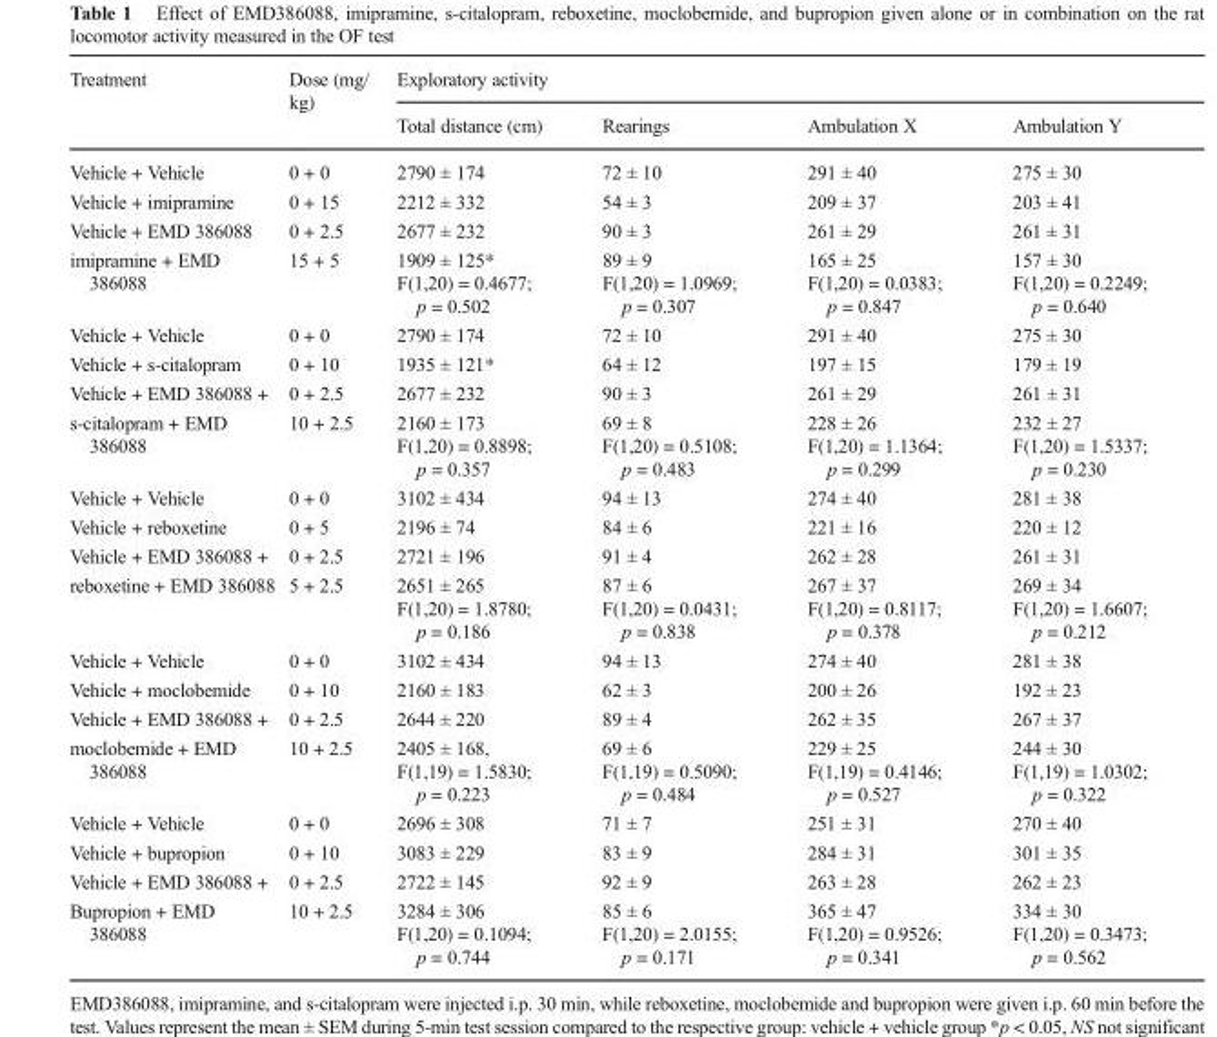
<table><thead><tr><td rowspan="2">Treatment</td><td rowspan="2">Dose (mg/ kg)</td><td colspan="4">Exploratory activity</td></tr><tr><td>Total distance (cm)</td><td>Rearings</td><td>Ambulation X</td><td>Ambulation Y</td></tr></thead><tbody><tr><td>Vehicle + Vehicle</td><td>0 + 0</td><td>2790 ± 174</td><td>72 ± 10</td><td>291 ± 40</td><td>275 ± 30</td></tr><tr><td>Vehicle + imipramine</td><td>0 + 15</td><td>2212 ± 332</td><td>54 ± 3</td><td>209 ± 37</td><td>203 ± 41</td></tr><tr><td>Vehicle + EMD 386088</td><td>0 + 2.5</td><td>2677 ± 232</td><td>90 ± 3</td><td>261 ± 29</td><td>261 ± 31</td></tr><tr><td>imipramine + EMD 386088</td><td>15 + 5</td><td>1909 ± 125* F(1,20) = 0.4677; p = 0.502</td><td>89 ± 9 F(1,20) = 1.0969; p = 0.307</td><td>165 ± 25 F(1,20) = 0.0383; p = 0.847</td><td>157 ± 30 F(1,20) = 0.2249; p = 0.640</td></tr><tr><td>Vehicle + Vehicle</td><td>0 + 0</td><td>2790 ± 174</td><td>72 ± 10</td><td>291 ± 40</td><td>275 ± 30</td></tr><tr><td>Vehicle + s-citalopram</td><td>0 + 10</td><td>1935 ± 121*</td><td>64 ± 12</td><td>197 ± 15</td><td>179 ± 19</td></tr><tr><td>Vehicle + EMD 386088 +</td><td>0 + 2.5</td><td>2677 ± 232</td><td>90 ± 3</td><td>261 ± 29</td><td>261 ± 31</td></tr><tr><td>s-citalopram + EMD 386088</td><td>10 + 2.5</td><td>2160 ± 173 F(1,20) = 0.8898; p = 0.357</td><td>69 ± 8 F(1,20) = 0.5108; p = 0.483</td><td>228 ± 26 F(1,20) = 1.1364; p = 0.299</td><td>232 ± 27 F(1,20) = 1.5337; p = 0.230</td></tr><tr><td>Vehicle + Vehicle</td><td>0 + 0</td><td>3102 ± 434</td><td>94 ± 13</td><td>274 ± 40</td><td>281 ± 38</td></tr><tr><td>Vehicle + reboxetine</td><td>0 + 5</td><td>2196 ± 74</td><td>84 ± 6</td><td>221 ± 16</td><td>220 ± 12</td></tr><tr><td>Vehicle + EMD 386088 +</td><td>0 + 2.5</td><td>2721 ± 196</td><td>91 ± 4</td><td>262 ± 28</td><td>261 ± 31</td></tr><tr><td>reboxetine + EMD 386088</td><td>5 + 2.5</td><td>2651 ± 265 F(1,20) = 1.8780; p = 0.186</td><td>87 ± 6 F(1,20) = 0.0431; p = 0.838</td><td>267 ± 37 F(1,20) = 0.8117; p = 0.378</td><td>269 ± 34 F(1,20) = 1.6607; p = 0.212</td></tr><tr><td>Vehicle + Vehicle</td><td>0 + 0</td><td>3102 ± 434</td><td>94 ± 13</td><td>274 ± 40</td><td>281 ± 38</td></tr><tr><td>Vehicle + moclobemide</td><td>0 + 10</td><td>2160 ± 183</td><td>62 ± 3</td><td>200 ± 26</td><td>192 ± 23</td></tr><tr><td>Vehicle + EMD 386088 +</td><td>0 + 2.5</td><td>2644 ± 220</td><td>89 ± 4</td><td>262 ± 35</td><td>267 ± 37</td></tr><tr><td>moclobemide + EMD 386088</td><td>10 + 2.5</td><td>2405 ± 168, F(1,19) = 1.5830; p = 0.223</td><td>69 ± 6 F(1,19) = 0.5090; p = 0.484</td><td>229 ± 25 F(1,19) = 0.4146; p = 0.527</td><td>244 ± 30 F(1,19) = 1.0302; p = 0.322</td></tr><tr><td>Vehicle + Vehicle</td><td>0 + 0</td><td>2696 ± 308</td><td>71 ± 7</td><td>251 ± 31</td><td>270 ± 40</td></tr><tr><td>Vehicle + bupropion</td><td>0 + 10</td><td>3083 ± 229</td><td>83 ± 9</td><td>284 ± 31</td><td>301 ± 35</td></tr><tr><td>Vehicle + EMD 386088 +</td><td>0 + 2.5</td><td>2722 ± 145</td><td>92 ± 9</td><td>263 ± 28</td><td>262 ± 23</td></tr><tr><td>Bupropion + EMD 386088</td><td>10 + 2.5</td><td>3284 ± 306 F(1,20) = 0.1094; p = 0.744</td><td>85 ± 6 F(1,20) = 2.0155; p = 0.171</td><td>365 ± 47 F(1,20) = 0.9526; p = 0.341</td><td>334 ± 30 F(1,20) = 0.3473; p = 0.562</td></tr></tbody></table>